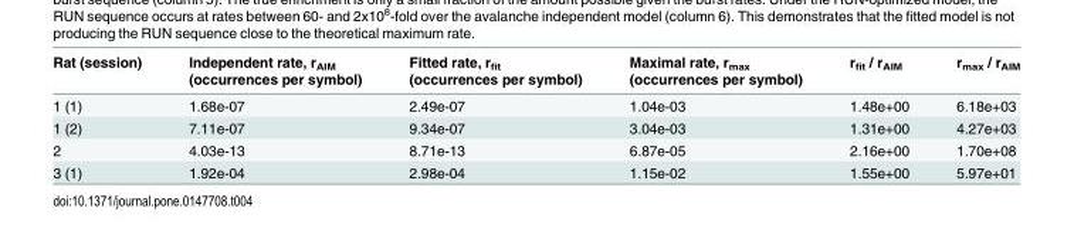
<table><thead><tr><td>Rat (session)</td><td>Independent rate, r<sub>AIM</sub> (occurrences per symbol)</td><td>Fitted rate, r<sub>fit</sub> (occurrences per symbol)</td><td>Maximal rate, r<sub>max</sub> (occurrences per symbol)</td><td>r<sub>fit</sub> / r<sub>AIM</sub></td><td>r<sub>max</sub> / r<sub>AIM</sub></td></tr></thead><tbody><tr><td>1 (1)</td><td>1.68e-07</td><td>2.49e-07</td><td>1.04e-03</td><td>1.48e+00</td><td>6.18e+03</td></tr><tr><td>1 (2)</td><td>7.11e-07</td><td>9.34e-07</td><td>3.04e-03</td><td>1.31e+00</td><td>4.27e+03</td></tr><tr><td>2</td><td>4.03e-13</td><td>8.71e-13</td><td>6.87e-05</td><td>2.16e+00</td><td>1.70e+08</td></tr><tr><td>3 (1)</td><td>1.92e-04</td><td>2.98e-04</td><td>1.15e-02</td><td>1.55e+00</td><td>5.97e+01</td></tr></tbody></table>